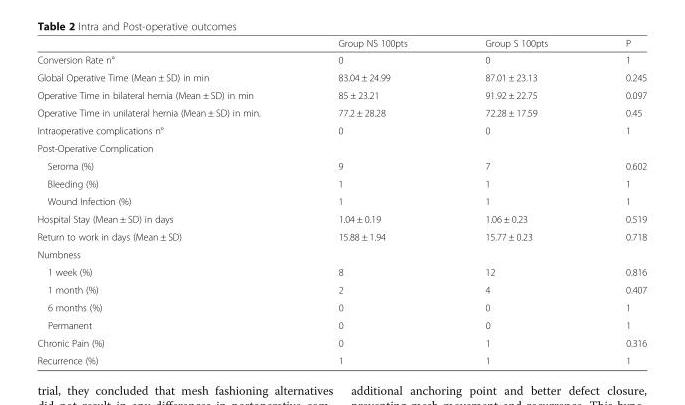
<table><thead><tr><td></td><td>Group NS 100pts</td><td>Group S 100pts</td><td>P</td></tr></thead><tbody><tr><td>Conversion Rate n°</td><td>0</td><td>0</td><td>1</td></tr><tr><td>Global Operative Time (Mean ± SD) in min</td><td>83.04 ± 24.99</td><td>87.01 ± 23.13</td><td>0.245</td></tr><tr><td>Operative Time in bilateral hernia (Mean ± SD) in min</td><td>85 ± 23.21</td><td>91.92 ± 22.75</td><td>0.097</td></tr><tr><td>Operative Time in unilateral hernia (Mean ± SD) in min.</td><td>77.2 ± 28.28</td><td>72.28 ± 17.59</td><td>0.45</td></tr><tr><td>Intraoperative complications n°</td><td>0</td><td>0</td><td>1</td></tr><tr><td colspan="4">Post-Operative Complication</td></tr><tr><td>Seroma (%)</td><td>9</td><td>7</td><td>0.602</td></tr><tr><td>Bleeding (%)</td><td>1</td><td>1</td><td>1</td></tr><tr><td>Wound Infection (%)</td><td>1</td><td>1</td><td>1</td></tr><tr><td>Hospital Stay (Mean ± SD) in days</td><td>1.04 ± 0.19</td><td>1.06 ± 0.23</td><td>0.519</td></tr><tr><td>Return to work in days (Mean ± SD)</td><td>15.88 ± 1.94</td><td>15.77 ± 0.23</td><td>0.718</td></tr><tr><td colspan="4">Numbness</td></tr><tr><td>1 week (%)</td><td>8</td><td>12</td><td>0.816</td></tr><tr><td>1 month (%)</td><td>2</td><td>4</td><td>0.407</td></tr><tr><td>6 months (%)</td><td>0</td><td>0</td><td>1</td></tr><tr><td>Permanent</td><td>0</td><td>0</td><td>1</td></tr><tr><td>Chronic Pain (%)</td><td>0</td><td>1</td><td>0.316</td></tr><tr><td>Recurrence (%)</td><td>1</td><td>1</td><td>1</td></tr></tbody></table>